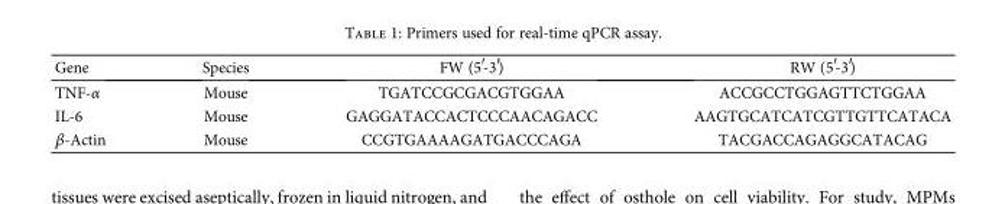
<table><thead><tr><td>Gene</td><td>Species</td><td>FW (5′-3′)</td><td>RW (5′-3′)</td></tr></thead><tbody><tr><td>TNF-α</td><td>Mouse</td><td>TGATCCGCGACGTGGAA</td><td>ACCGCCTGGAGTTCTGGAA</td></tr><tr><td>IL-6</td><td>Mouse</td><td>GAGGATACCACTCCCAACAGACC</td><td>AAGTGCATCATCGTTGTTCATACA</td></tr><tr><td>β-Actin</td><td>Mouse</td><td>CCGTGAAAAGATGACCCAGA</td><td>TACGACCAGAGGCATACAG</td></tr></tbody></table>